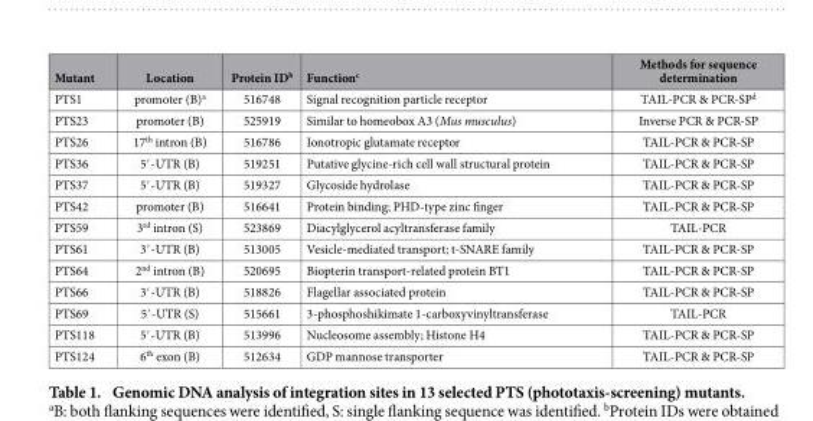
<table><thead><tr><td>Mutant</td><td>Location</td><td>Protein ID<sup>b</sup></td><td>Function<sup>c</sup></td><td>Methods for sequence determination</td></tr></thead><tbody><tr><td>PTS1</td><td>promoter (B)<sup>a</sup></td><td>516748</td><td>Signal recognition particle receptor</td><td>TAIL-PCR &amp; PCR-SP<sup>d</sup></td></tr><tr><td>PTS23</td><td>promoter (B)</td><td>525919</td><td>Similar to homeobox A3 (Mus musculus)</td><td>Inverse PCR &amp; PCR-SP</td></tr><tr><td>PTS26</td><td>17<sup>th</sup> intron (B)</td><td>516786</td><td>Ionotropic glutamate receptor</td><td>TAIL-PCR &amp; PCR-SP</td></tr><tr><td>PTS36</td><td>5′ -UTR (B)</td><td>519251</td><td>Putative glycine-rich cell wall structural protein</td><td>TAIL-PCR &amp; PCR-SP</td></tr><tr><td>PTS37</td><td>5′ -UTR (B)</td><td>519327</td><td>Glycoside hydrolase</td><td>TAIL-PCR &amp; PCR-SP</td></tr><tr><td>PTS42</td><td>promoter (B)</td><td>516641</td><td>Protein binding; PHD-type zinc finger</td><td>TAIL-PCR &amp; PCR-SP</td></tr><tr><td>PTS59</td><td>3<sup>rd</sup> intron (S)</td><td>523869</td><td>Diacylglycerol acyltransferase family</td><td>TAIL-PCR</td></tr><tr><td>PTS61</td><td>3′ -UTR (B)</td><td>513005</td><td>Vesicle-mediated transport; t-SNARE family</td><td>TAIL-PCR &amp; PCR-SP</td></tr><tr><td>PTS64</td><td>2<sup>nd</sup> intron (B)</td><td>520695</td><td>Biopterin transport-related protein BT1</td><td>TAIL-PCR &amp; PCR-SP</td></tr><tr><td>PTS66</td><td>3′ -UTR (B)</td><td>518826</td><td>Flagellar associated protein</td><td>TAIL-PCR &amp; PCR-SP</td></tr><tr><td>PTS69</td><td>5′ -UTR (S)</td><td>515661</td><td>3-phosphoshikimate 1-carboxyvinyltransferase</td><td>TAIL-PCR</td></tr><tr><td>PTS118</td><td>5′ -UTR (B)</td><td>513996</td><td>Nucleosome assembly; Histone H4</td><td>TAIL-PCR &amp; PCR-SP</td></tr><tr><td>PTS124</td><td>6<sup>th</sup> exon (B)</td><td>512634</td><td>GDP mannose transporter</td><td>TAIL-PCR &amp; PCR-SP</td></tr></tbody></table>